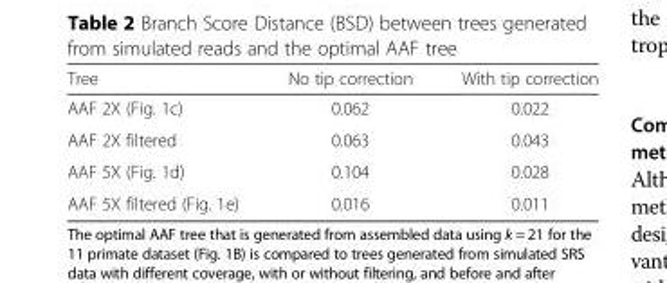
<table><thead><tr><td>Tree</td><td>No tip correction</td><td>With tip correction</td></tr></thead><tbody><tr><td>AAF 2X (Fig. 1c)</td><td>0.062</td><td>0.022</td></tr><tr><td>AAF 2X filtered</td><td>0.063</td><td>0.043</td></tr><tr><td>AAF 5X (Fig. 1d)</td><td>0.104</td><td>0.028</td></tr><tr><td>AAF 5X filtered (Fig. 1e)</td><td>0.016</td><td>0.011</td></tr></tbody></table>